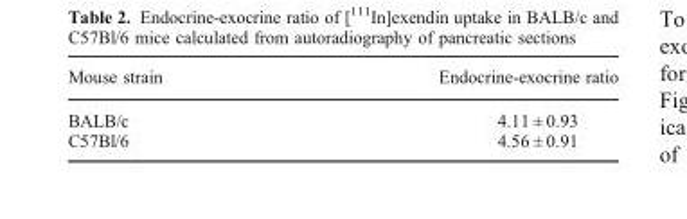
<table><thead><tr><td>Mouse strain</td><td>Endocrine-exocrine ratio</td></tr></thead><tbody><tr><td>BALB/c</td><td>4.11 ± 0.93</td></tr><tr><td>C57Bl/6</td><td>4.56 ± 0.91</td></tr></tbody></table>